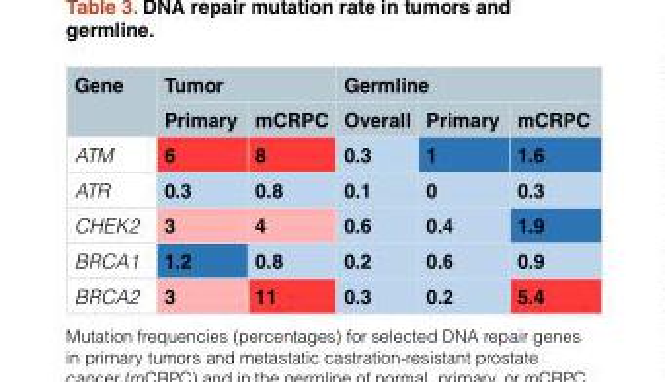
<table><thead><tr><td rowspan="2">Gene</td><td colspan="2">Tumor</td><td colspan="3">Germline</td></tr><tr><td>Primary</td><td>mCRPC</td><td>Overall</td><td>Primary</td><td>mCRPC</td></tr></thead><tbody><tr><td>ATM</td><td>6</td><td>8</td><td>0.3</td><td>1</td><td>1.6</td></tr><tr><td>ATR</td><td>0.3</td><td>0.8</td><td>0.1</td><td>0</td><td>0.3</td></tr><tr><td>CHEK2</td><td>3</td><td>4</td><td>0.6</td><td>0.4</td><td>1.9</td></tr><tr><td>BRCA1</td><td>1.2</td><td>0.8</td><td>0.2</td><td>0.6</td><td>0.9</td></tr><tr><td>BRCA2</td><td>3</td><td>11</td><td>0.3</td><td>0.2</td><td>5.4</td></tr></tbody></table>